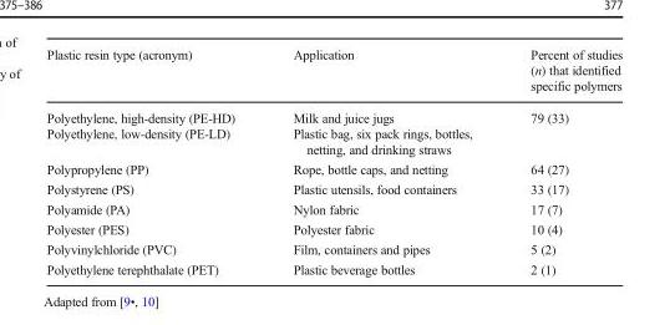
<table><thead><tr><td>Plastic resin type (acronym)</td><td>Application</td><td>Percent of studies (n) that identified specific polymers</td></tr></thead><tbody><tr><td>Polyethylene, high-density (PE-HD)</td><td>Milk and juice jugs</td><td rowspan="2">79 (33)</td></tr><tr><td>Polyethylene, low-density (PE-LD)</td><td>Plastic bag, six pack rings, bottles, netting, and drinking straws</td></tr><tr><td>Polypropylene (PP)</td><td>Rope, bottle caps, and netting</td><td>64 (27)</td></tr><tr><td>Polystyrene (PS)</td><td>Plastic utensils, food containers</td><td>33 (17)</td></tr><tr><td>Polyamide (PA)</td><td>Nylon fabric</td><td>17 (7)</td></tr><tr><td>Polyester (PES)</td><td>Polyester fabric</td><td>10 (4)</td></tr><tr><td>Polyvinylchloride (PVC)</td><td>Film, containers and pipes</td><td>5 (2)</td></tr><tr><td>Polyethylene terephthalate (PET)</td><td>Plastic beverage bottles</td><td>2 (1)</td></tr></tbody></table>